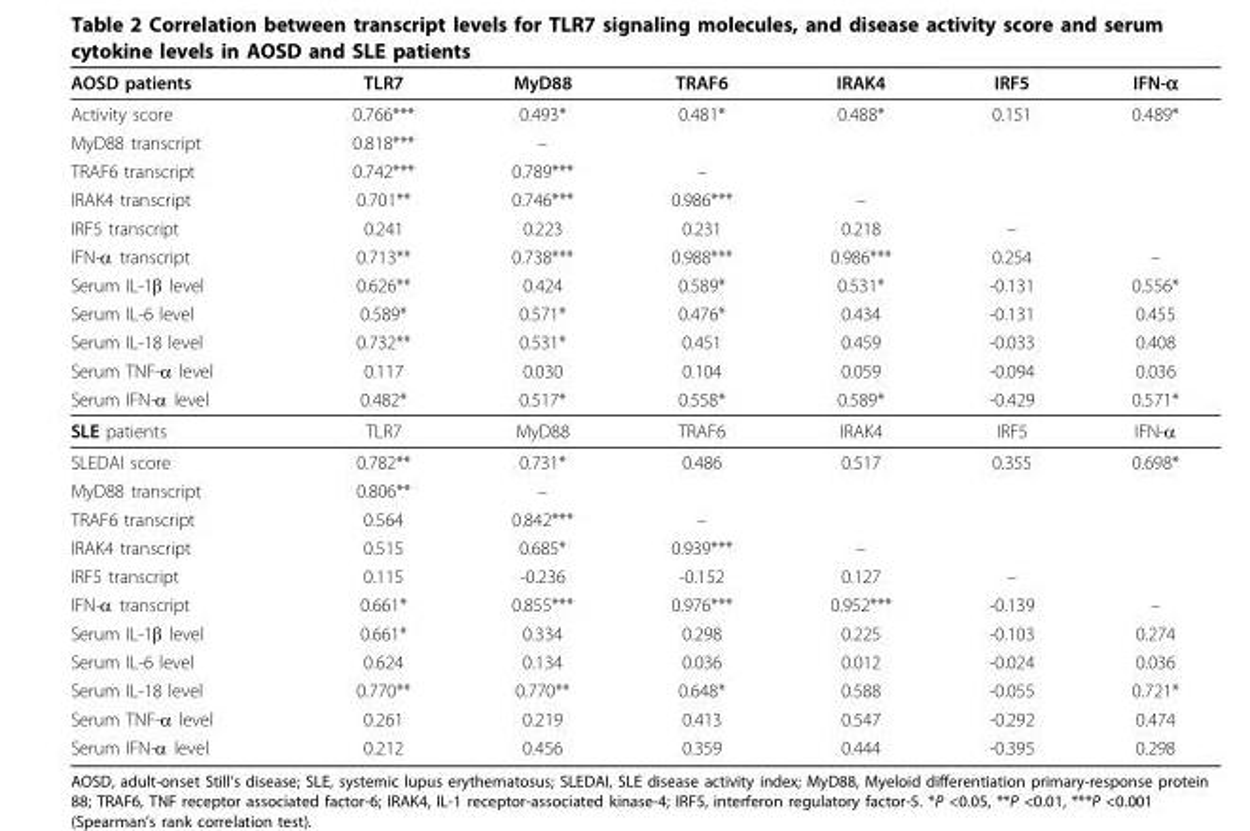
<table><thead><tr><td>AOSD patients</td><td>TLR7</td><td>MyD88</td><td>TRAF6</td><td>IRAK4</td><td>IRF5</td><td>IFN-α</td></tr></thead><tbody><tr><td>Activity score</td><td>0.766***</td><td>0.493*</td><td>0.481*</td><td>0.488*</td><td>0.151</td><td>0.489*</td></tr><tr><td>MyD88 transcript</td><td>0.818***</td><td>–</td><td></td><td></td><td></td><td></td></tr><tr><td>TRAF6 transcript</td><td>0.742***</td><td>0.789***</td><td>–</td><td></td><td></td><td></td></tr><tr><td>IRAK4 transcript</td><td>0.701**</td><td>0.746***</td><td>0.986***</td><td>–</td><td></td><td></td></tr><tr><td>IRF5 transcript</td><td>0.241</td><td>0.223</td><td>0.231</td><td>0.218</td><td>–</td><td></td></tr><tr><td>IFN-α transcript</td><td>0.713**</td><td>0.738***</td><td>0.988***</td><td>0.986***</td><td>0.254</td><td>–</td></tr><tr><td>Serum IL-1β level</td><td>0.626**</td><td>0.424</td><td>0.589*</td><td>0.531*</td><td>-0.131</td><td>0.556*</td></tr><tr><td>Serum IL-6 level</td><td>0.589*</td><td>0.571*</td><td>0.476*</td><td>0.434</td><td>-0.131</td><td>0.455</td></tr><tr><td>Serum IL-18 level</td><td>0.732**</td><td>0.531*</td><td>0.451</td><td>0.459</td><td>-0.033</td><td>0.408</td></tr><tr><td>Serum TNF-α level</td><td>0.117</td><td>0.030</td><td>0.104</td><td>0.059</td><td>-0.094</td><td>0.036</td></tr><tr><td>Serum IFN-α level</td><td>0.482*</td><td>0.517*</td><td>0.558*</td><td>0.589*</td><td>-0.429</td><td>0.571*</td></tr><tr><td>SLE patients</td><td>TLR7</td><td>MyD88</td><td>TRAF6</td><td>IRAK4</td><td>IRF5</td><td>IFN-α</td></tr><tr><td>SLEDAI score</td><td>0.782**</td><td>0.731*</td><td>0.486</td><td>0.517</td><td>0.355</td><td>0.698*</td></tr><tr><td>MyD88 transcript</td><td>0.806**</td><td>–</td><td></td><td></td><td></td><td></td></tr><tr><td>TRAF6 transcript</td><td>0.564</td><td>0.842***</td><td>–</td><td></td><td></td><td></td></tr><tr><td>IRAK4 transcript</td><td>0.515</td><td>0.685*</td><td>0.939***</td><td>–</td><td></td><td></td></tr><tr><td>IRF5 transcript</td><td>0.115</td><td>-0.236</td><td>-0.152</td><td>0.127</td><td>–</td><td></td></tr><tr><td>IFN-α transcript</td><td>0.661*</td><td>0.855***</td><td>0.976***</td><td>0.952***</td><td>-0.139</td><td>–</td></tr><tr><td>Serum IL-1β level</td><td>0.661*</td><td>0.334</td><td>0.298</td><td>0.225</td><td>-0.103</td><td>0.274</td></tr><tr><td>Serum IL-6 level</td><td>0.624</td><td>0.134</td><td>0.036</td><td>0.012</td><td>-0.024</td><td>0.036</td></tr><tr><td>Serum IL-18 level</td><td>0.770**</td><td>0.770**</td><td>0.648*</td><td>0.588</td><td>-0.055</td><td>0.721*</td></tr><tr><td>Serum TNF-α level</td><td>0.261</td><td>0.219</td><td>0.413</td><td>0.547</td><td>-0.292</td><td>0.474</td></tr><tr><td>Serum IFN-α level</td><td>0.212</td><td>0.456</td><td>0.359</td><td>0.444</td><td>-0.395</td><td>0.298</td></tr></tbody></table>